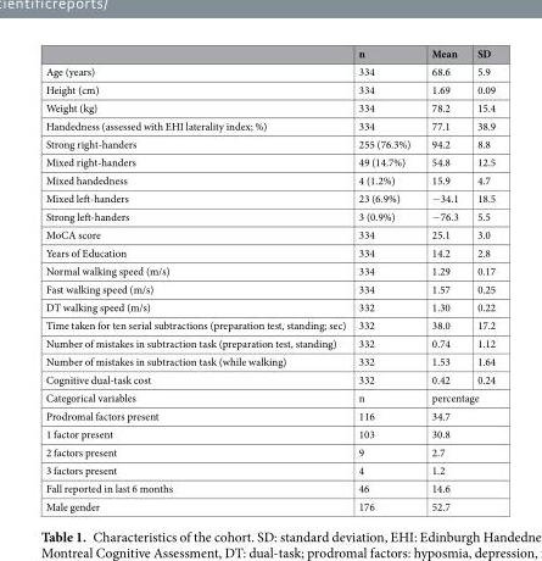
<table><thead><tr><td></td><td>n</td><td>Mean</td><td>SD</td></tr></thead><tbody><tr><td>Age (years)</td><td>334</td><td>68.6</td><td>5.9</td></tr><tr><td>Height (cm)</td><td>334</td><td>1.69</td><td>0.09</td></tr><tr><td>Weight (kg)</td><td>334</td><td>78.2</td><td>15.4</td></tr><tr><td>Handedness (assessed with EHI laterality index; %)</td><td>334</td><td>77.1</td><td>38.9</td></tr><tr><td>Strong right-handers</td><td>255 (76.3%)</td><td>94.2</td><td>8.8</td></tr><tr><td>Mixed right-handers</td><td>49 (14.7%)</td><td>54.8</td><td>12.5</td></tr><tr><td>Mixed handedness</td><td>4 (1.2%)</td><td>15.9</td><td>4.7</td></tr><tr><td>Mixed left-handers</td><td>23 (6.9%)</td><td>−34.1</td><td>18.5</td></tr><tr><td>Strong left-handers</td><td>3 (0.9%)</td><td>−76.3</td><td>5.5</td></tr><tr><td>MoCA score</td><td>334</td><td>25.1</td><td>3.0</td></tr><tr><td>Years of Education</td><td>334</td><td>14.2</td><td>2.8</td></tr><tr><td>Normal walking speed (m/s)</td><td>334</td><td>1.29</td><td>0.17</td></tr><tr><td>Fast walking speed (m/s)</td><td>334</td><td>1.57</td><td>0.25</td></tr><tr><td>DT walking speed (m/s)</td><td>332</td><td>1.30</td><td>0.22</td></tr><tr><td>Time taken for ten serial subtractions (preparation test, standing; sec)</td><td>332</td><td>38.0</td><td>17.2</td></tr><tr><td>Number of mistakes in subtraction task (preparation test, standing)</td><td>332</td><td>0.74</td><td>1.12</td></tr><tr><td>Number of mistakes in subtraction task (while walking)</td><td>332</td><td>1.53</td><td>1.64</td></tr><tr><td>Cognitive dual-task cost</td><td>332</td><td>0.42</td><td>0.24</td></tr><tr><td>Categorical variables</td><td>n</td><td colspan="2">percentage</td></tr><tr><td>Prodromal factors present</td><td>116</td><td colspan="2">34.7</td></tr><tr><td>1 factor present</td><td>103</td><td colspan="2">30.8</td></tr><tr><td>2 factors present</td><td>9</td><td colspan="2">2.7</td></tr><tr><td>3 factors present</td><td>4</td><td colspan="2">1.2</td></tr><tr><td>Fall reported in last 6 months</td><td>46</td><td colspan="2">14.6</td></tr><tr><td>Male gender</td><td>176</td><td colspan="2">52.7</td></tr></tbody></table>